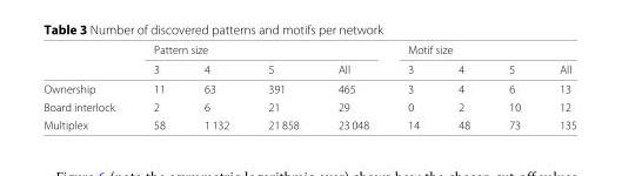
<table><thead><tr><td rowspan="2"></td><td colspan="4">Pattern size</td><td colspan="4">Motif size</td></tr><tr><td>3</td><td>4</td><td>5</td><td>All</td><td>3</td><td>4</td><td>5</td><td>All</td></tr></thead><tbody><tr><td>Ownership</td><td>11</td><td>63</td><td>391</td><td>465</td><td>3</td><td>4</td><td>6</td><td>13</td></tr><tr><td>Board interlock</td><td>2</td><td>6</td><td>21</td><td>29</td><td>0</td><td>2</td><td>10</td><td>12</td></tr><tr><td>Multiplex</td><td>58</td><td>1 132</td><td>21 858</td><td>23 048</td><td>14</td><td>48</td><td>73</td><td>135</td></tr></tbody></table>